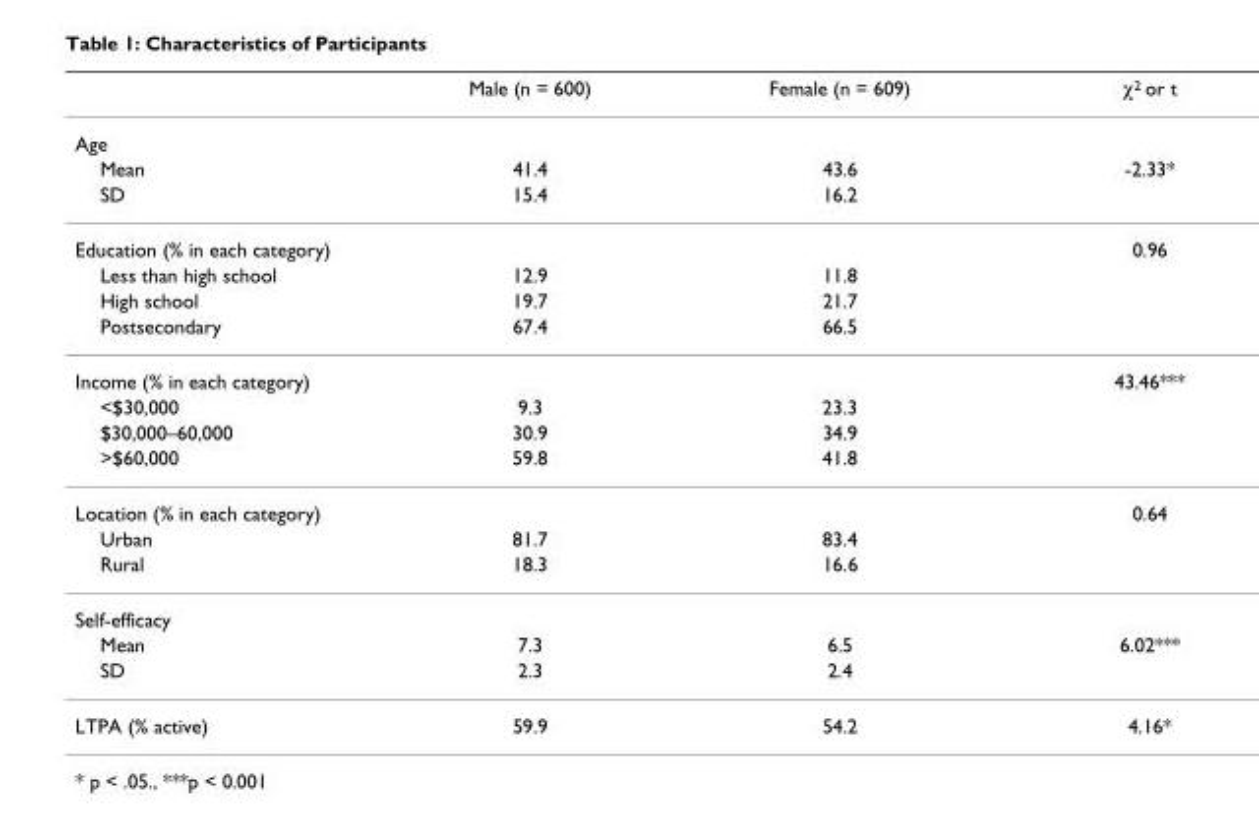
<table><thead><tr><td></td><td>Male (n = 600)</td><td>Female (n = 609)</td><td>χ<sup>2</sup> or t</td></tr></thead><tbody><tr><td colspan="4">Age</td></tr><tr><td>Mean</td><td>41.4</td><td>43.6</td><td>-2.33*</td></tr><tr><td>SD</td><td>15.4</td><td>16.2</td><td></td></tr><tr><td>Education (% in each category)</td><td></td><td></td><td>0.96</td></tr><tr><td>Less than high school</td><td>12.9</td><td>11.8</td><td></td></tr><tr><td>High school</td><td>19.7</td><td>21.7</td><td></td></tr><tr><td>Postsecondary</td><td>67.4</td><td>66.5</td><td></td></tr><tr><td>Income (% in each category)</td><td></td><td></td><td>43.46***</td></tr><tr><td>&lt;$30,000</td><td>9.3</td><td>23.3</td><td></td></tr><tr><td>$30,000–60,000</td><td>30.9</td><td>34.9</td><td></td></tr><tr><td>&gt;$60,000</td><td>59.8</td><td>41.8</td><td></td></tr><tr><td>Location (% in each category)</td><td></td><td></td><td>0.64</td></tr><tr><td>Urban</td><td>81.7</td><td>83.4</td><td></td></tr><tr><td>Rural</td><td>18.3</td><td>16.6</td><td></td></tr><tr><td colspan="4">Self-efficacy</td></tr><tr><td>Mean</td><td>7.3</td><td>6.5</td><td>6.02***</td></tr><tr><td>SD</td><td>2.3</td><td>2.4</td><td></td></tr><tr><td>LTPA (% active)</td><td>59.9</td><td>54.2</td><td>4.16*</td></tr></tbody></table>